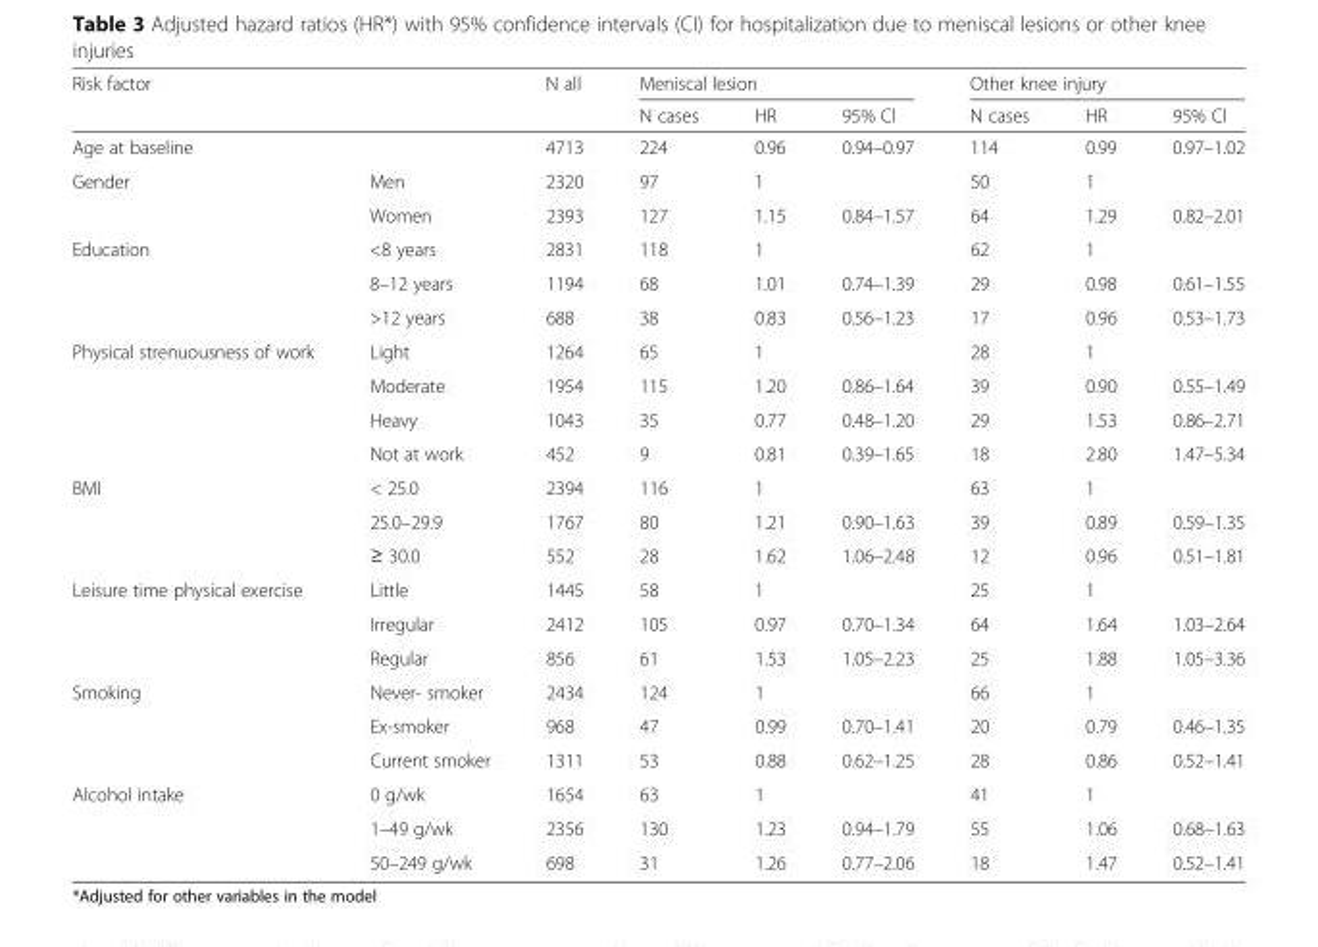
<table><thead><tr><td rowspan="2" colspan="2">Risk factor</td><td rowspan="3">N all 4713</td><td colspan="3">Meniscal lesion</td><td colspan="3">Other knee injury</td></tr><tr><td rowspan="2">N cases 224</td><td rowspan="2">HR 0.96</td><td rowspan="2">95% Cl 0.94–0.97</td><td rowspan="2">N cases 114</td><td rowspan="2">HR 0.99</td><td rowspan="2">95% Cl 0.97–1.02</td></tr><tr><td>Age at baseline</td><td></td></tr></thead><tbody><tr><td rowspan="2">Gender</td><td>Men</td><td>2320</td><td>97</td><td>1</td><td></td><td>50</td><td>1</td><td></td></tr><tr><td>Women</td><td>2393</td><td>127</td><td>1.15</td><td>0.84–1.57</td><td>64</td><td>1.29</td><td>0.82–2.01</td></tr><tr><td rowspan="3">Education</td><td>&lt;8 years</td><td>2831</td><td>118</td><td>1</td><td></td><td>62</td><td>1</td><td></td></tr><tr><td>8–12 years</td><td>1194</td><td>68</td><td>1.01</td><td>0.74–1.39</td><td>29</td><td>0.98</td><td>0.61–1.55</td></tr><tr><td>&gt;12 years</td><td>688</td><td>38</td><td>0.83</td><td>0.56–1.23</td><td>17</td><td>0.96</td><td>0.53–1.73</td></tr><tr><td rowspan="4">Physical strenuousness of work</td><td>Light</td><td>1264</td><td>65</td><td>1</td><td></td><td>28</td><td>1</td><td></td></tr><tr><td>Moderate</td><td>1954</td><td>115</td><td>1.20</td><td>0.86–1.64</td><td>39</td><td>0.90</td><td>0.55–1.49</td></tr><tr><td>Heavy</td><td>1043</td><td>35</td><td>0.77</td><td>0.48–1.20</td><td>29</td><td>1.53</td><td>0.86–2.71</td></tr><tr><td>Not at work</td><td>452</td><td>9</td><td>0.81</td><td>0.39–1.65</td><td>18</td><td>2.80</td><td>1.47–5.34</td></tr><tr><td rowspan="3">BMI</td><td>&lt; 25.0</td><td>2394</td><td>116</td><td>1</td><td></td><td>63</td><td>1</td><td></td></tr><tr><td>25.0–29.9</td><td>1767</td><td>80</td><td>1.21</td><td>0.90–1.63</td><td>39</td><td>0.89</td><td>0.59–1.35</td></tr><tr><td>≥ 30.0</td><td>552</td><td>28</td><td>1.62</td><td>1.06–2.48</td><td>12</td><td>0.96</td><td>0.51–1.81</td></tr><tr><td rowspan="3">Leisure time physical exercise</td><td>Little</td><td>1445</td><td>58</td><td>1</td><td></td><td>25</td><td>1</td><td></td></tr><tr><td>Irregular</td><td>2412</td><td>105</td><td>0.97</td><td>0.70–1.34</td><td>64</td><td>1.64</td><td>1.03–2.64</td></tr><tr><td>Regular</td><td>856</td><td>61</td><td>1.53</td><td>1.05–2.23</td><td>25</td><td>1.88</td><td>1.05–3.36</td></tr><tr><td rowspan="3">Smoking</td><td>Never- smoker</td><td>2434</td><td>124</td><td>1</td><td></td><td>66</td><td>1</td><td></td></tr><tr><td>Ex-smoker</td><td>968</td><td>47</td><td>0.99</td><td>0.70–1.41</td><td>20</td><td>0.79</td><td>0.46–1.35</td></tr><tr><td>Current smoker</td><td>1311</td><td>53</td><td>0.88</td><td>0.62–1.25</td><td>28</td><td>0.86</td><td>0.52–1.41</td></tr><tr><td rowspan="3">Alcohol intake</td><td>0 g/wk</td><td>1654</td><td>63</td><td>1</td><td></td><td>41</td><td>1</td><td></td></tr><tr><td>1–49 g/wk</td><td>2356</td><td>130</td><td>1.23</td><td>0.94–1.79</td><td>55</td><td>1.06</td><td>0.68–1.63</td></tr><tr><td>50–249 g/wk</td><td>698</td><td>31</td><td>1.26</td><td>0.77–2.06</td><td>18</td><td>1.47</td><td>0.52–1.41</td></tr></tbody></table>